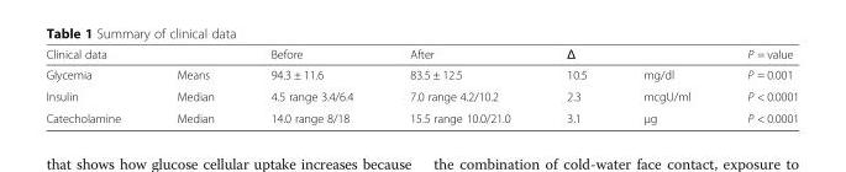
<table><thead><tr><td>Clinical data</td><td></td><td>Before</td><td>After</td><td>Δ</td><td></td><td>P = value</td></tr></thead><tbody><tr><td>Glycemia</td><td>Means</td><td>94.3 ± 11.6</td><td>83.5 ± 12.5</td><td>10.5</td><td>mg/dl</td><td>P = 0.001</td></tr><tr><td>Insulin</td><td>Median</td><td>4.5 range 3.4/6.4</td><td>7.0 range 4.2/10.2</td><td>2.3</td><td>mcgU/ml</td><td>P &lt; 0.0001</td></tr><tr><td>Catecholamine</td><td>Median</td><td>14.0 range 8/18</td><td>15.5 range 10.0/21.0</td><td>3.1</td><td>μg</td><td>P &lt; 0.0001</td></tr></tbody></table>